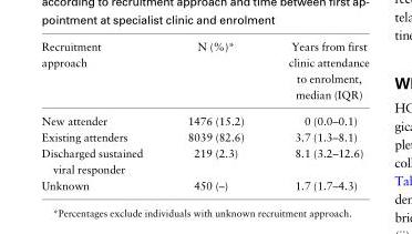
<table><thead><tr><td>Recruitment approach</td><td>N (%)*</td><td>Years from first clinic attendance to enrolment, median (IQR)</td></tr></thead><tbody><tr><td>New attender</td><td>1476 (15.2)</td><td>0 (0.0–0.1)</td></tr><tr><td>Existing attenders</td><td>8039 (82.6)</td><td>3.7 (1.3–8.1)</td></tr><tr><td>Discharged sustained viral responder</td><td>219 (2.3)</td><td>8.1 (3.2–12.6)</td></tr><tr><td>Unknown</td><td>450 (–)</td><td>1.7 (1.7–4.3)</td></tr></tbody></table>